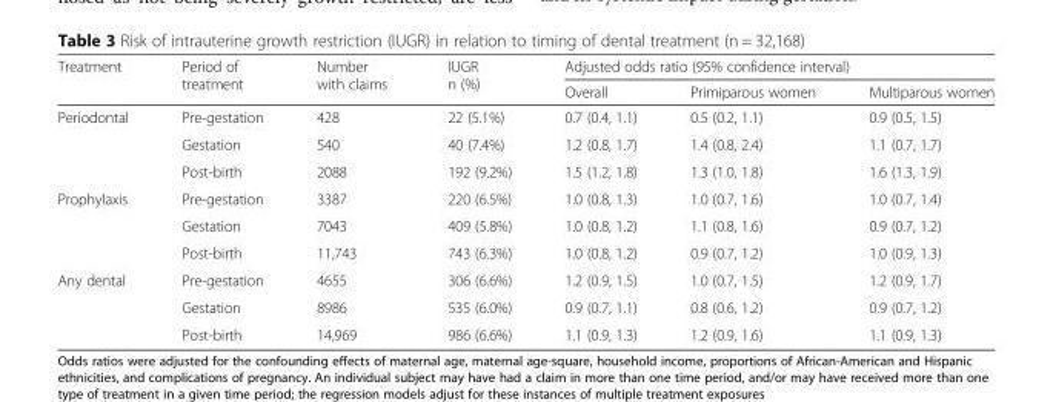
<table><thead><tr><td rowspan="2">Treatment</td><td rowspan="2">Period of treatment</td><td rowspan="2">Number with claims</td><td rowspan="2">IUGR n (%)</td><td colspan="3">Adjusted odds ratio (95% confidence interval)</td></tr><tr><td>Overall</td><td>Primiparous women</td><td>Multiparous women</td></tr></thead><tbody><tr><td rowspan="3">Periodontal</td><td>Pre-gestation</td><td>428</td><td>22 (5.1%)</td><td>0.7 (0.4, 1.1)</td><td>0.5 (0.2, 1.1)</td><td>0.9 (0.5, 1.5)</td></tr><tr><td>Gestation</td><td>540</td><td>40 (7.4%)</td><td>1.2 (0.8, 1.7)</td><td>1.4 (0.8, 2.4)</td><td>1.1 (0.7, 1.7)</td></tr><tr><td>Post-birth</td><td>2088</td><td>192 (9.2%)</td><td>1.5 (1.2, 1.8)</td><td>1.3 (1.0, 1.8)</td><td>1.6 (1.3, 1.9)</td></tr><tr><td rowspan="3">Prophylaxis</td><td>Pre-gestation</td><td>3387</td><td>220 (6.5%)</td><td>1.0 (0.8, 1.3)</td><td>1.0 (0.7, 1.6)</td><td>1.0 (0.7, 1.4)</td></tr><tr><td>Gestation</td><td>7043</td><td>409 (5.8%)</td><td>1.0 (0.8, 1.2)</td><td>1.1 (0.8, 1.6)</td><td>0.9 (0.7, 1.2)</td></tr><tr><td>Post-birth</td><td>11,743</td><td>743 (6.3%)</td><td>1.0 (0.8, 1.2)</td><td>0.9 (0.7, 1.2)</td><td>1.0 (0.9, 1.3)</td></tr><tr><td rowspan="3">Any dental</td><td>Pre-gestation</td><td>4655</td><td>306 (6.6%)</td><td>1.2 (0.9, 1.5)</td><td>1.0 (0.7, 1.5)</td><td>1.2 (0.9, 1.7)</td></tr><tr><td>Gestation</td><td>8986</td><td>535 (6.0%)</td><td>0.9 (0.7, 1.1)</td><td>0.8 (0.6, 1.2)</td><td>0.9 (0.7, 1.2)</td></tr><tr><td>Post-birth</td><td>14,969</td><td>986 (6.6%)</td><td>1.1 (0.9, 1.3)</td><td>1.2 (0.9, 1.6)</td><td>1.1 (0.9, 1.3)</td></tr></tbody></table>